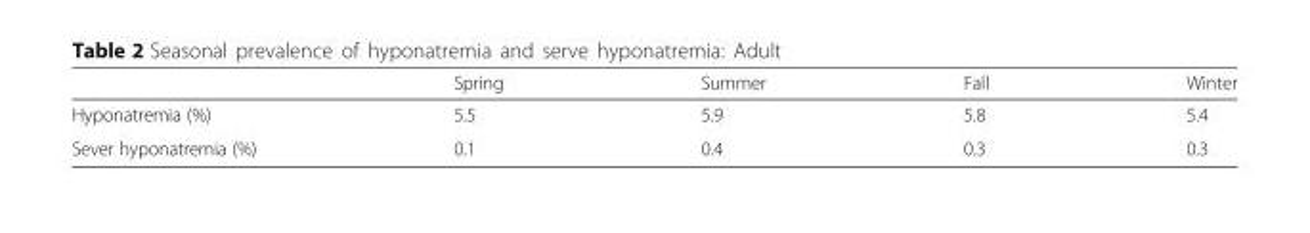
<table><thead><tr><td></td><td>Spring</td><td>Summer</td><td>Fall</td><td>Winter</td></tr></thead><tbody><tr><td>Hyponatremia (%)</td><td>5.5</td><td>5.9</td><td>5.8</td><td>5.4</td></tr><tr><td>Sever hyponatremia (%)</td><td>0.1</td><td>0.4</td><td>0.3</td><td>0.3</td></tr></tbody></table>